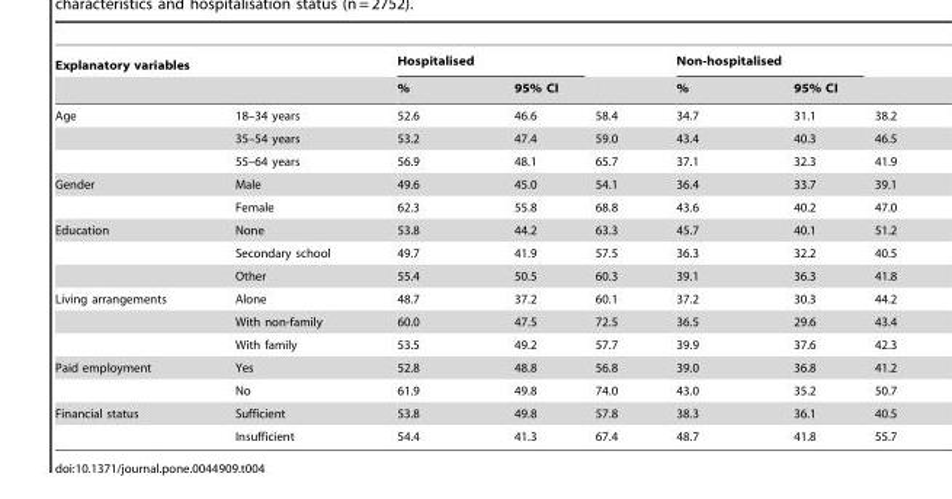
<table><thead><tr><td colspan="2">Explanatory variables</td><td colspan="2">Hospitalised</td><td rowspan="2"></td><td colspan="2">Non-hospitalised</td><td rowspan="2"></td></tr><tr><td></td><td></td><td>%</td><td>95% CI</td><td>%</td><td>95% CI</td></tr></thead><tbody><tr><td rowspan="3">Age</td><td>18–34 years</td><td>52.6</td><td>46.6</td><td>58.4</td><td>34.7</td><td>31.1</td><td>38.2</td></tr><tr><td>35–54 years</td><td>53.2</td><td>47.4</td><td>59.0</td><td>43.4</td><td>40.3</td><td>46.5</td></tr><tr><td>55–64 years</td><td>56.9</td><td>48.1</td><td>65.7</td><td>37.1</td><td>32.3</td><td>41.9</td></tr><tr><td rowspan="2">Gender</td><td>Male</td><td>49.6</td><td>45.0</td><td>54.1</td><td>36.4</td><td>33.7</td><td>39.1</td></tr><tr><td>Female</td><td>62.3</td><td>55.8</td><td>68.8</td><td>43.6</td><td>40.2</td><td>47.0</td></tr><tr><td rowspan="3">Education</td><td>None</td><td>53.8</td><td>44.2</td><td>63.3</td><td>45.7</td><td>40.1</td><td>51.2</td></tr><tr><td>Secondary school</td><td>49.7</td><td>41.9</td><td>57.5</td><td>36.3</td><td>32.2</td><td>40.5</td></tr><tr><td>Other</td><td>55.4</td><td>50.5</td><td>60.3</td><td>39.1</td><td>36.3</td><td>41.8</td></tr><tr><td rowspan="3">Living arrangements</td><td>Alone</td><td>48.7</td><td>37.2</td><td>60.1</td><td>37.2</td><td>30.3</td><td>44.2</td></tr><tr><td>With non-family</td><td>60.0</td><td>47.5</td><td>72.5</td><td>36.5</td><td>29.6</td><td>43.4</td></tr><tr><td>With family</td><td>53.5</td><td>49.2</td><td>57.7</td><td>39.9</td><td>37.6</td><td>42.3</td></tr><tr><td rowspan="2">Paid employment</td><td>Yes</td><td>52.8</td><td>48.8</td><td>56.8</td><td>39.0</td><td>36.8</td><td>41.2</td></tr><tr><td>No</td><td>61.9</td><td>49.8</td><td>74.0</td><td>43.0</td><td>35.2</td><td>50.7</td></tr><tr><td rowspan="2">Financial status</td><td>Sufficient</td><td>53.8</td><td>49.8</td><td>57.8</td><td>38.3</td><td>36.1</td><td>40.5</td></tr><tr><td>Insufficient</td><td>54.4</td><td>41.3</td><td>67.4</td><td>48.7</td><td>41.8</td><td>55.7</td></tr></tbody></table>